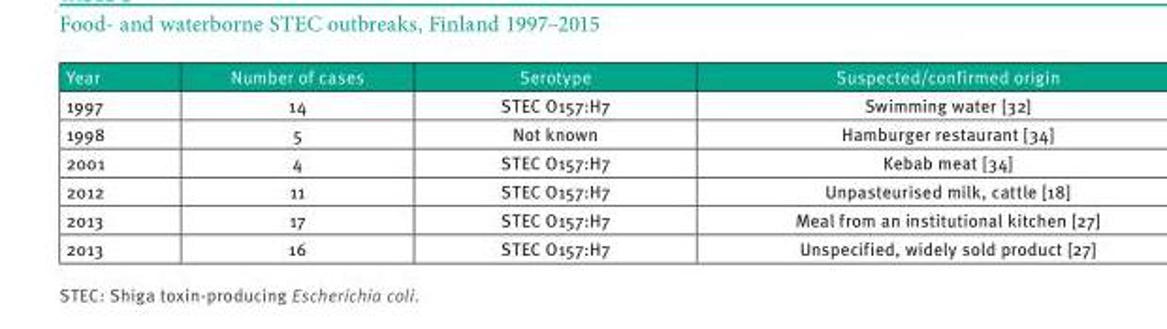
<table><thead><tr><td>Year</td><td>Number of cases</td><td>Serotype</td><td>Suspected/confirmed origin</td></tr></thead><tbody><tr><td>1997</td><td>14</td><td>STEC O157:H7</td><td>Swimming water [32]</td></tr><tr><td>1998</td><td>5</td><td>Not known</td><td>Hamburger restaurant [34]</td></tr><tr><td>2001</td><td>4</td><td>STEC O157:H7</td><td>Kebab meat [34]</td></tr><tr><td>2012</td><td>11</td><td>STEC O157:H7</td><td>Unpasteurised milk, cattle [18]</td></tr><tr><td>2013</td><td>17</td><td>STEC O157:H7</td><td>Meal from an institutional kitchen [27]</td></tr><tr><td>2013</td><td>16</td><td>STEC O157:H7</td><td>Unspecified, widely sold product [27]</td></tr></tbody></table>